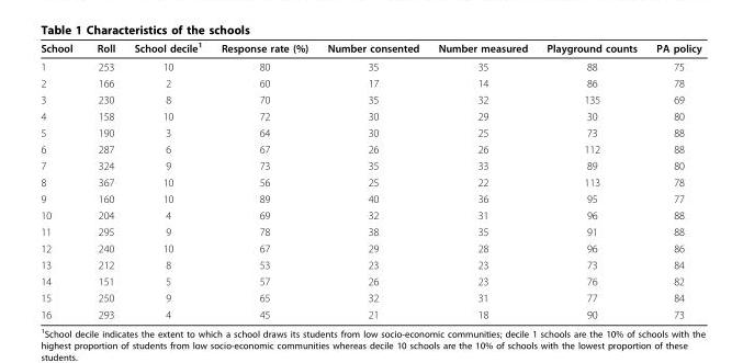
<table><thead><tr><td>School</td><td>Roll</td><td>School decile<sup>1</sup></td><td>Response rate (%)</td><td>Number consented</td><td>Number measured</td><td>Playground counts</td><td>PA policy</td></tr></thead><tbody><tr><td>1</td><td>253</td><td>10</td><td>80</td><td>35</td><td>35</td><td>88</td><td>75</td></tr><tr><td>2</td><td>166</td><td>2</td><td>60</td><td>17</td><td>14</td><td>86</td><td>78</td></tr><tr><td>3</td><td>230</td><td>8</td><td>70</td><td>35</td><td>32</td><td>135</td><td>69</td></tr><tr><td>4</td><td>158</td><td>10</td><td>72</td><td>30</td><td>29</td><td>30</td><td>80</td></tr><tr><td>5</td><td>190</td><td>3</td><td>64</td><td>30</td><td>25</td><td>73</td><td>88</td></tr><tr><td>6</td><td>287</td><td>6</td><td>67</td><td>26</td><td>26</td><td>112</td><td>88</td></tr><tr><td>7</td><td>324</td><td>9</td><td>73</td><td>35</td><td>33</td><td>89</td><td>80</td></tr><tr><td>8</td><td>367</td><td>10</td><td>56</td><td>25</td><td>22</td><td>113</td><td>78</td></tr><tr><td>9</td><td>160</td><td>10</td><td>89</td><td>40</td><td>36</td><td>95</td><td>77</td></tr><tr><td>10</td><td>204</td><td>4</td><td>69</td><td>32</td><td>31</td><td>96</td><td>88</td></tr><tr><td>11</td><td>295</td><td>9</td><td>78</td><td>38</td><td>35</td><td>91</td><td>88</td></tr><tr><td>12</td><td>240</td><td>10</td><td>67</td><td>29</td><td>28</td><td>96</td><td>86</td></tr><tr><td>13</td><td>212</td><td>8</td><td>53</td><td>23</td><td>23</td><td>73</td><td>84</td></tr><tr><td>14</td><td>151</td><td>5</td><td>57</td><td>26</td><td>23</td><td>76</td><td>82</td></tr><tr><td>15</td><td>250</td><td>9</td><td>65</td><td>32</td><td>31</td><td>77</td><td>84</td></tr><tr><td>16</td><td>293</td><td>4</td><td>45</td><td>21</td><td>18</td><td>90</td><td>73</td></tr></tbody></table>